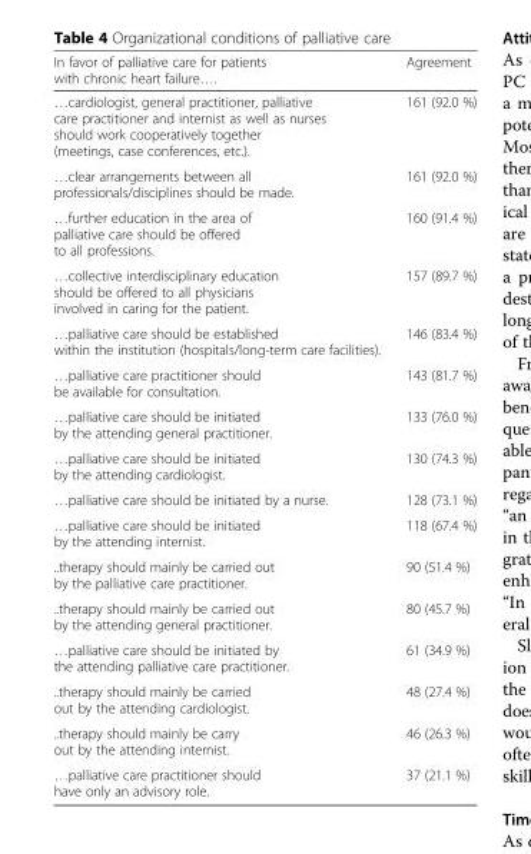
<table><thead><tr><td>In favor of palliative care for patients with chronic heart failure….</td><td>Agreement</td></tr></thead><tbody><tr><td>…cardiologist, general practitioner, palliative care practitioner and internist as well as nurses should work cooperatively together (meetings, case conferences, etc.).</td><td>161 (92.0 %)</td></tr><tr><td>…clear arrangements between all professionals/disciplines should be made.</td><td>161 (92.0 %)</td></tr><tr><td>…further education in the area of palliative care should be offered to all professions.</td><td>160 (91.4 %)</td></tr><tr><td>…collective interdisciplinary education should be offered to all physicians involved in caring for the patient.</td><td>157 (89.7 %)</td></tr><tr><td>…palliative care should be established within the institution (hospitals/long-term care facilities).</td><td>146 (83.4 %)</td></tr><tr><td>…palliative care practitioner should be available for consultation.</td><td>143 (81.7 %)</td></tr><tr><td>…palliative care should be initiated by the attending general practitioner.</td><td>133 (76.0 %)</td></tr><tr><td>…palliative care should be initiated by the attending cardiologist.</td><td>130 (74.3 %)</td></tr><tr><td>…palliative care should be initiated by a nurse.</td><td>128 (73.1 %)</td></tr><tr><td>…palliative care should be initiated by the attending internist.</td><td>118 (67.4 %)</td></tr><tr><td>..therapy should mainly be carried out by the palliative care practitioner.</td><td>90 (51.4 %)</td></tr><tr><td>..therapy should mainly be carried out by the attending general practitioner.</td><td>80 (45.7 %)</td></tr><tr><td>…palliative care should be initiated by the attending palliative care practitioner.</td><td>61 (34.9 %)</td></tr><tr><td>..therapy should mainly be carried out by the attending cardiologist.</td><td>48 (27.4 %)</td></tr><tr><td>..therapy should mainly be carry out by the attending internist.</td><td>46 (26.3 %)</td></tr><tr><td>…palliative care practitioner should have only an advisory role.</td><td>37 (21.1 %)</td></tr></tbody></table>